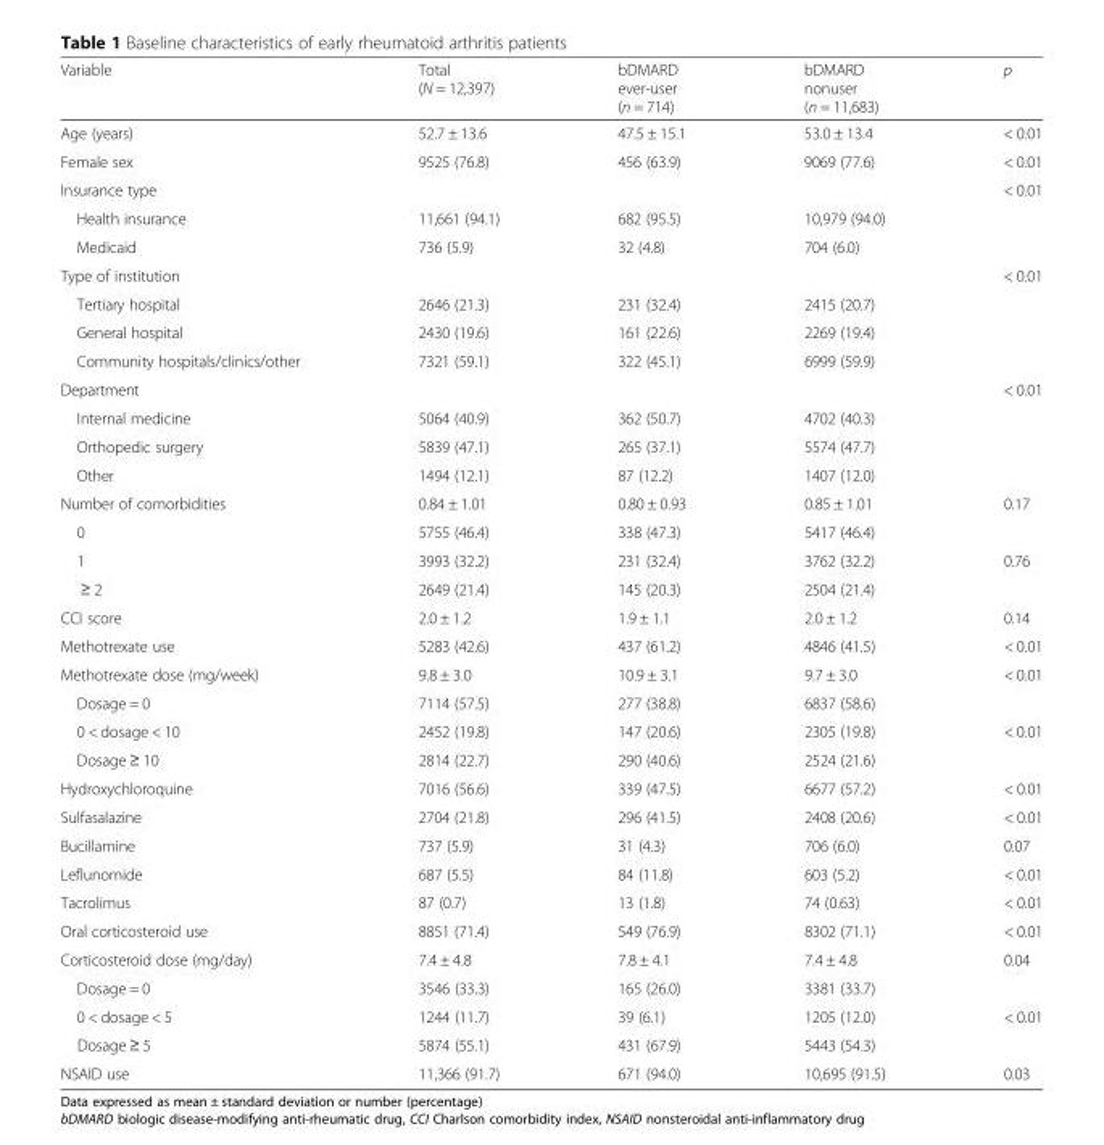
<table><thead><tr><td>Variable</td><td>Total (N = 12,397)</td><td>bDMARD ever-user (n = 714)</td><td>bDMARD nonuser (n = 11,683)</td><td>p</td></tr></thead><tbody><tr><td>Age (years)</td><td>52.7 ± 13.6</td><td>47.5 ± 15.1</td><td>53.0 ± 13.4</td><td>&lt; 0.01</td></tr><tr><td>Female sex</td><td>9525 (76.8)</td><td>456 (63.9)</td><td>9069 (77.6)</td><td>&lt; 0.01</td></tr><tr><td>Insurance type</td><td></td><td></td><td></td><td>&lt; 0.01</td></tr><tr><td>Health insurance</td><td>11,661 (94.1)</td><td>682 (95.5)</td><td>10,979 (94.0)</td><td></td></tr><tr><td>Medicaid</td><td>736 (5.9)</td><td>32 (4.8)</td><td>704 (6.0)</td><td></td></tr><tr><td>Type of institution</td><td></td><td></td><td></td><td>&lt; 0.01</td></tr><tr><td>Tertiary hospital</td><td>2646 (21.3)</td><td>231 (32.4)</td><td>2415 (20.7)</td><td></td></tr><tr><td>General hospital</td><td>2430 (19.6)</td><td>161 (22.6)</td><td>2269 (19.4)</td><td></td></tr><tr><td>Community hospitals/clinics/other</td><td>7321 (59.1)</td><td>322 (45.1)</td><td>6999 (59.9)</td><td></td></tr><tr><td>Department</td><td></td><td></td><td></td><td>&lt; 0.01</td></tr><tr><td>Internal medicine</td><td>5064 (40.9)</td><td>362 (50.7)</td><td>4702 (40.3)</td><td></td></tr><tr><td>Orthopedic surgery</td><td>5839 (47.1)</td><td>265 (37.1)</td><td>5574 (47.7)</td><td></td></tr><tr><td>Other</td><td>1494 (12.1)</td><td>87 (12.2)</td><td>1407 (12.0)</td><td></td></tr><tr><td>Number of comorbidities</td><td>0.84 ± 1.01</td><td>0.80 ± 0.93</td><td>0.85 ± 1.01</td><td>0.17</td></tr><tr><td>0</td><td>5755 (46.4)</td><td>338 (47.3)</td><td>5417 (46.4)</td><td></td></tr><tr><td>1</td><td>3993 (32.2)</td><td>231 (32.4)</td><td>3762 (32.2)</td><td>0.76</td></tr><tr><td>≥ 2</td><td>2649 (21.4)</td><td>145 (20.3)</td><td>2504 (21.4)</td><td></td></tr><tr><td>CCI score</td><td>2.0 ± 1.2</td><td>1.9 ± 1.1</td><td>2.0 ± 1.2</td><td>0.14</td></tr><tr><td>Methotrexate use</td><td>5283 (42.6)</td><td>437 (61.2)</td><td>4846 (41.5)</td><td>&lt; 0.01</td></tr><tr><td>Methotrexate dose (mg/week)</td><td>9.8 ± 3.0</td><td>10.9 ± 3.1</td><td>9.7 ± 3.0</td><td>&lt; 0.01</td></tr><tr><td>Dosage = 0</td><td>7114 (57.5)</td><td>277 (38.8)</td><td>6837 (58.6)</td><td></td></tr><tr><td>0 &lt; dosage &lt; 10</td><td>2452 (19.8)</td><td>147 (20.6)</td><td>2305 (19.8)</td><td>&lt; 0.01</td></tr><tr><td>Dosage ≥ 10</td><td>2814 (22.7)</td><td>290 (40.6)</td><td>2524 (21.6)</td><td></td></tr><tr><td>Hydroxychloroquine</td><td>7016 (56.6)</td><td>339 (47.5)</td><td>6677 (57.2)</td><td>&lt; 0.01</td></tr><tr><td>Sulfasalazine</td><td>2704 (21.8)</td><td>296 (41.5)</td><td>2408 (20.6)</td><td>&lt; 0.01</td></tr><tr><td>Bucillamine</td><td>737 (5.9)</td><td>31 (4.3)</td><td>706 (6.0)</td><td>0.07</td></tr><tr><td>Leflunomide</td><td>687 (5.5)</td><td>84 (11.8)</td><td>603 (5.2)</td><td>&lt; 0.01</td></tr><tr><td>Tacrolimus</td><td>87 (0.7)</td><td>13 (1.8)</td><td>74 (0.63)</td><td>&lt; 0.01</td></tr><tr><td>Oral corticosteroid use</td><td>8851 (71.4)</td><td>549 (76.9)</td><td>8302 (71.1)</td><td>&lt; 0.01</td></tr><tr><td>Corticosteroid dose (mg/day)</td><td>7.4 ± 4.8</td><td>7.8 ± 4.1</td><td>7.4 ± 4.8</td><td>0.04</td></tr><tr><td>Dosage = 0</td><td>3546 (33.3)</td><td>165 (26.0)</td><td>3381 (33.7)</td><td></td></tr><tr><td>0 &lt; dosage &lt; 5</td><td>1244 (11.7)</td><td>39 (6.1)</td><td>1205 (12.0)</td><td>&lt; 0.01</td></tr><tr><td>Dosage ≥ 5</td><td>5874 (55.1)</td><td>431 (67.9)</td><td>5443 (54.3)</td><td></td></tr><tr><td>NSAID use</td><td>11,366 (91.7)</td><td>671 (94.0)</td><td>10,695 (91.5)</td><td>0.03</td></tr></tbody></table>